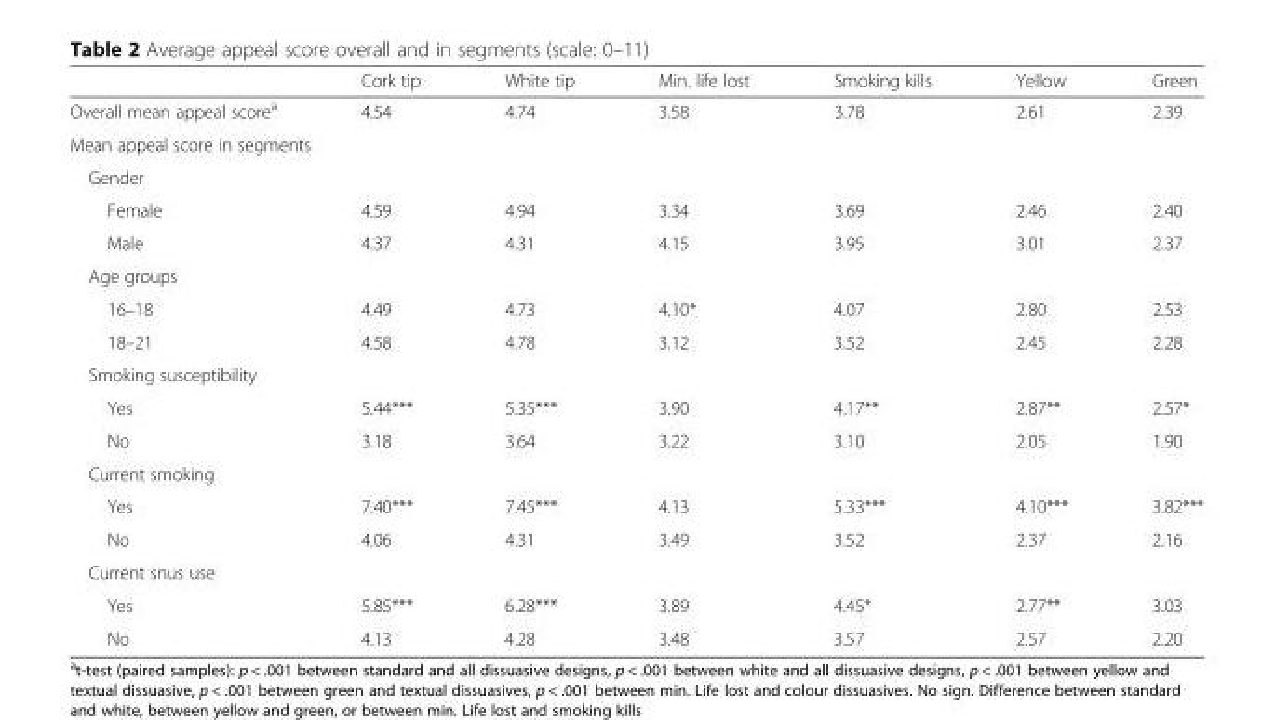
<table><thead><tr><td></td><td>Cork tip</td><td>White tip</td><td>Min. life lost</td><td>Smoking kills</td><td>Yellow</td><td>Green</td></tr></thead><tbody><tr><td>Overall mean appeal score<sup>a</sup></td><td>4.54</td><td>4.74</td><td>3.58</td><td>3.78</td><td>2.61</td><td>2.39</td></tr><tr><td colspan="7">Mean appeal score in segments</td></tr><tr><td colspan="7">Gender</td></tr><tr><td>Female</td><td>4.59</td><td>4.94</td><td>3.34</td><td>3.69</td><td>2.46</td><td>2.40</td></tr><tr><td>Male</td><td>4.37</td><td>4.31</td><td>4.15</td><td>3.95</td><td>3.01</td><td>2.37</td></tr><tr><td colspan="7">Age groups</td></tr><tr><td>16–18</td><td>4.49</td><td>4.73</td><td>4.10*</td><td>4.07</td><td>2.80</td><td>2.53</td></tr><tr><td>18–21</td><td>4.58</td><td>4.78</td><td>3.12</td><td>3.52</td><td>2.45</td><td>2.28</td></tr><tr><td colspan="7">Smoking susceptibility</td></tr><tr><td>Yes</td><td>5.44***</td><td>5.35***</td><td>3.90</td><td>4.17**</td><td>2.87**</td><td>2.57*</td></tr><tr><td>No</td><td>3.18</td><td>3.64</td><td>3.22</td><td>3.10</td><td>2.05</td><td>1.90</td></tr><tr><td colspan="7">Current smoking</td></tr><tr><td>Yes</td><td>7.40***</td><td>7.45***</td><td>4.13</td><td>5.33***</td><td>4.10***</td><td>3.82***</td></tr><tr><td>No</td><td>4.06</td><td>4.31</td><td>3.49</td><td>3.52</td><td>2.37</td><td>2.16</td></tr><tr><td colspan="7">Current snus use</td></tr><tr><td>Yes</td><td>5.85***</td><td>6.28***</td><td>3.89</td><td>4.45*</td><td>2.77**</td><td>3.03</td></tr><tr><td>No</td><td>4.13</td><td>4.28</td><td>3.48</td><td>3.57</td><td>2.57</td><td>2.20</td></tr></tbody></table>